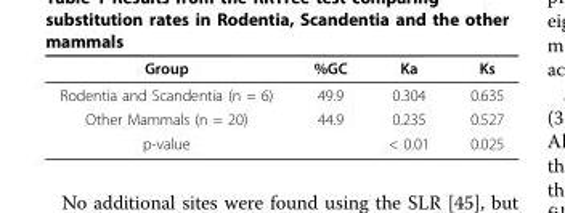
<table><thead><tr><td>Group</td><td>%GC</td><td>Ka</td><td>Ks</td></tr></thead><tbody><tr><td>Rodentia and Scandentia (n = 6)</td><td>49.9</td><td>0.304</td><td>0.635</td></tr><tr><td>Other Mammals (n = 20)</td><td>44.9</td><td>0.235</td><td>0.527</td></tr><tr><td>p-value</td><td></td><td>&lt; 0.01</td><td>0.025</td></tr></tbody></table>